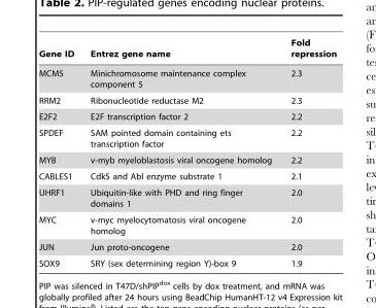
<table><thead><tr><td>Gene ID</td><td>Entrez gene name</td><td>Fold repression</td></tr></thead><tbody><tr><td>MCM5</td><td>Minichromosome maintenance complex component 5</td><td>2.3</td></tr><tr><td>RRM2</td><td>Ribonucleotide reductase M2</td><td>2.3</td></tr><tr><td>E2F2</td><td>E2F transcription factor 2</td><td>2.2</td></tr><tr><td>SPDEF</td><td>SAM pointed domain containing ets transcription factor</td><td>2.2</td></tr><tr><td>MYB</td><td>v-myb myeloblastosis viral oncogene homolog</td><td>2.2</td></tr><tr><td>CABLES1</td><td>Cdk5 and Abl enzyme substrate 1</td><td>2.1</td></tr><tr><td>UHRF1</td><td>Ubiquitin-like with PHD and ring finger domains 1</td><td>2.0</td></tr><tr><td>MYC</td><td>v-myc myelocytomatosis viral oncogene homolog</td><td>2.0</td></tr><tr><td>JUN</td><td>Jun proto-oncogene</td><td>2.0</td></tr><tr><td>SOX9</td><td>SRY (sex determining region Y)-box 9</td><td>1.9</td></tr></tbody></table>